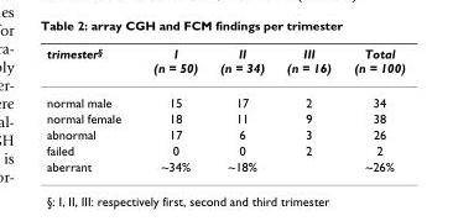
<table><thead><tr><td>trimester<sup>§</sup></td><td>I (n = 50)</td><td>II (n = 34)</td><td>III (n = 16)</td><td>Total (n = 100)</td></tr></thead><tbody><tr><td>normal male</td><td>15</td><td>17</td><td>2</td><td>34</td></tr><tr><td>normal female</td><td>18</td><td>11</td><td>9</td><td>38</td></tr><tr><td>abnormal</td><td>17</td><td>6</td><td>3</td><td>26</td></tr><tr><td>failed</td><td>0</td><td>0</td><td>2</td><td>2</td></tr><tr><td>aberrant</td><td>~34%</td><td>~18%</td><td></td><td>~26%</td></tr></tbody></table>